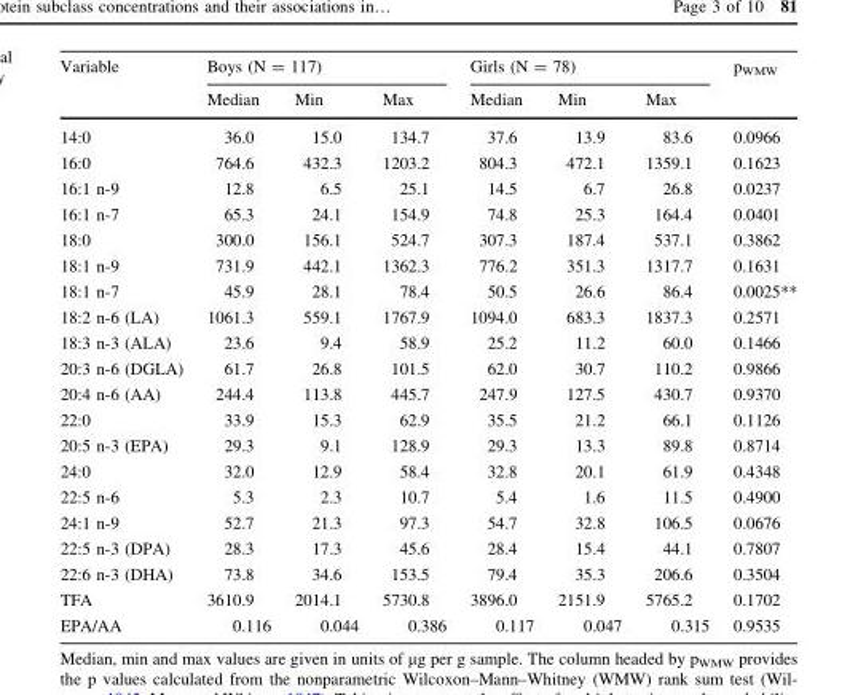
<table><thead><tr><td rowspan="2">Variable</td><td colspan="3">Boys (N = 117)</td><td colspan="3">Girls (N = 78)</td><td rowspan="2">p<sub>WMW</sub></td></tr><tr><td>Median</td><td>Min</td><td>Max</td><td>Median</td><td>Min</td><td>Max</td></tr></thead><tbody><tr><td>14:0</td><td>36.0</td><td>15.0</td><td>134.7</td><td>37.6</td><td>13.9</td><td>83.6</td><td>0.0966</td></tr><tr><td>16:0</td><td>764.6</td><td>432.3</td><td>1203.2</td><td>804.3</td><td>472.1</td><td>1359.1</td><td>0.1623</td></tr><tr><td>16:1 n-9</td><td>12.8</td><td>6.5</td><td>25.1</td><td>14.5</td><td>6.7</td><td>26.8</td><td>0.0237</td></tr><tr><td>16:1 n-7</td><td>65.3</td><td>24.1</td><td>154.9</td><td>74.8</td><td>25.3</td><td>164.4</td><td>0.0401</td></tr><tr><td>18:0</td><td>300.0</td><td>156.1</td><td>524.7</td><td>307.3</td><td>187.4</td><td>537.1</td><td>0.3862</td></tr><tr><td>18:1 n-9</td><td>731.9</td><td>442.1</td><td>1362.3</td><td>776.2</td><td>351.3</td><td>1317.7</td><td>0.1631</td></tr><tr><td>18:1 n-7</td><td>45.9</td><td>28.1</td><td>78.4</td><td>50.5</td><td>26.6</td><td>86.4</td><td>0.0025**</td></tr><tr><td>18:2 n-6 (LA)</td><td>1061.3</td><td>559.1</td><td>1767.9</td><td>1094.0</td><td>683.3</td><td>1837.3</td><td>0.2571</td></tr><tr><td>18:3 n-3 (ALA)</td><td>23.6</td><td>9.4</td><td>58.9</td><td>25.2</td><td>11.2</td><td>60.0</td><td>0.1466</td></tr><tr><td>20:3 n-6 (DGLA)</td><td>61.7</td><td>26.8</td><td>101.5</td><td>62.0</td><td>30.7</td><td>110.2</td><td>0.9866</td></tr><tr><td>20:4 n-6 (AA)</td><td>244.4</td><td>113.8</td><td>445.7</td><td>247.9</td><td>127.5</td><td>430.7</td><td>0.9370</td></tr><tr><td>22:0</td><td>33.9</td><td>15.3</td><td>62.9</td><td>35.5</td><td>21.2</td><td>66.1</td><td>0.1126</td></tr><tr><td>20:5 n-3 (EPA)</td><td>29.3</td><td>9.1</td><td>128.9</td><td>29.3</td><td>13.3</td><td>89.8</td><td>0.8714</td></tr><tr><td>24:0</td><td>32.0</td><td>12.9</td><td>58.4</td><td>32.8</td><td>20.1</td><td>61.9</td><td>0.4348</td></tr><tr><td>22:5 n-6</td><td>5.3</td><td>2.3</td><td>10.7</td><td>5.4</td><td>1.6</td><td>11.5</td><td>0.4900</td></tr><tr><td>24:1 n-9</td><td>52.7</td><td>21.3</td><td>97.3</td><td>54.7</td><td>32.8</td><td>106.5</td><td>0.0676</td></tr><tr><td>22:5 n-3 (DPA)</td><td>28.3</td><td>17.3</td><td>45.6</td><td>28.4</td><td>15.4</td><td>44.1</td><td>0.7807</td></tr><tr><td>22:6 n-3 (DHA)</td><td>73.8</td><td>34.6</td><td>153.5</td><td>79.4</td><td>35.3</td><td>206.6</td><td>0.3504</td></tr><tr><td>TFA</td><td>3610.9</td><td>2014.1</td><td>5730.8</td><td>3896.0</td><td>2151.9</td><td>5765.2</td><td>0.1702</td></tr><tr><td>EPA/AA</td><td>0.116</td><td>0.044</td><td>0.386</td><td>0.117</td><td>0.047</td><td>0.315</td><td>0.9535</td></tr></tbody></table>